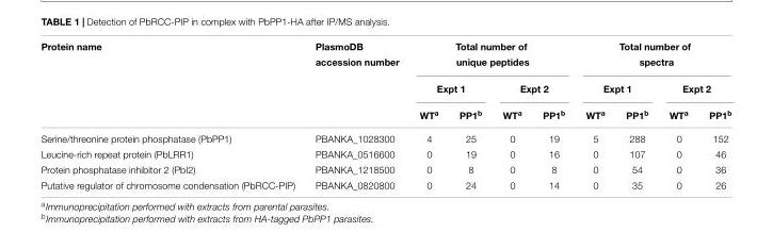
<table><thead><tr><td rowspan="4">Protein name</td><td rowspan="4">PlasmoDB accession number</td><td rowspan="2" colspan="4">Total number of unique peptides</td><td rowspan="2" colspan="4">Total number of spectra</td></tr><tr></tr><tr><td colspan="2">Expt 1</td><td colspan="2">Expt 2</td><td colspan="2">Expt 1</td><td colspan="2">Expt 2</td></tr><tr><td>WT<sup>a</sup></td><td>PP1<sup>b</sup></td><td>WT<sup>a</sup></td><td>PP1<sup>b</sup></td><td>WT<sup>a</sup></td><td>PP1<sup>b</sup></td><td>WT<sup>a</sup></td><td>PP1<sup>b</sup></td></tr></thead><tbody><tr><td>Serine/threonine protein phosphatase (PbPP1)</td><td>PBANKA_1028300</td><td>4</td><td>25</td><td>0</td><td>19</td><td>5</td><td>288</td><td>0</td><td>152</td></tr><tr><td>Leucine-rich repeat protein (PbLRR1)</td><td>PBANKA_0516600</td><td>0</td><td>19</td><td>0</td><td>16</td><td>0</td><td>107</td><td>0</td><td>46</td></tr><tr><td>Protein phosphatase inhibitor 2 (PbI2)</td><td>PBANKA_1218500</td><td>0</td><td>8</td><td>0</td><td>8</td><td>0</td><td>54</td><td>0</td><td>36</td></tr><tr><td>Putative regulator of chromosome condensation (PbRCC-PIP)</td><td>PBANKA_0820800</td><td>0</td><td>24</td><td>0</td><td>14</td><td>0</td><td>35</td><td>0</td><td>26</td></tr></tbody></table>